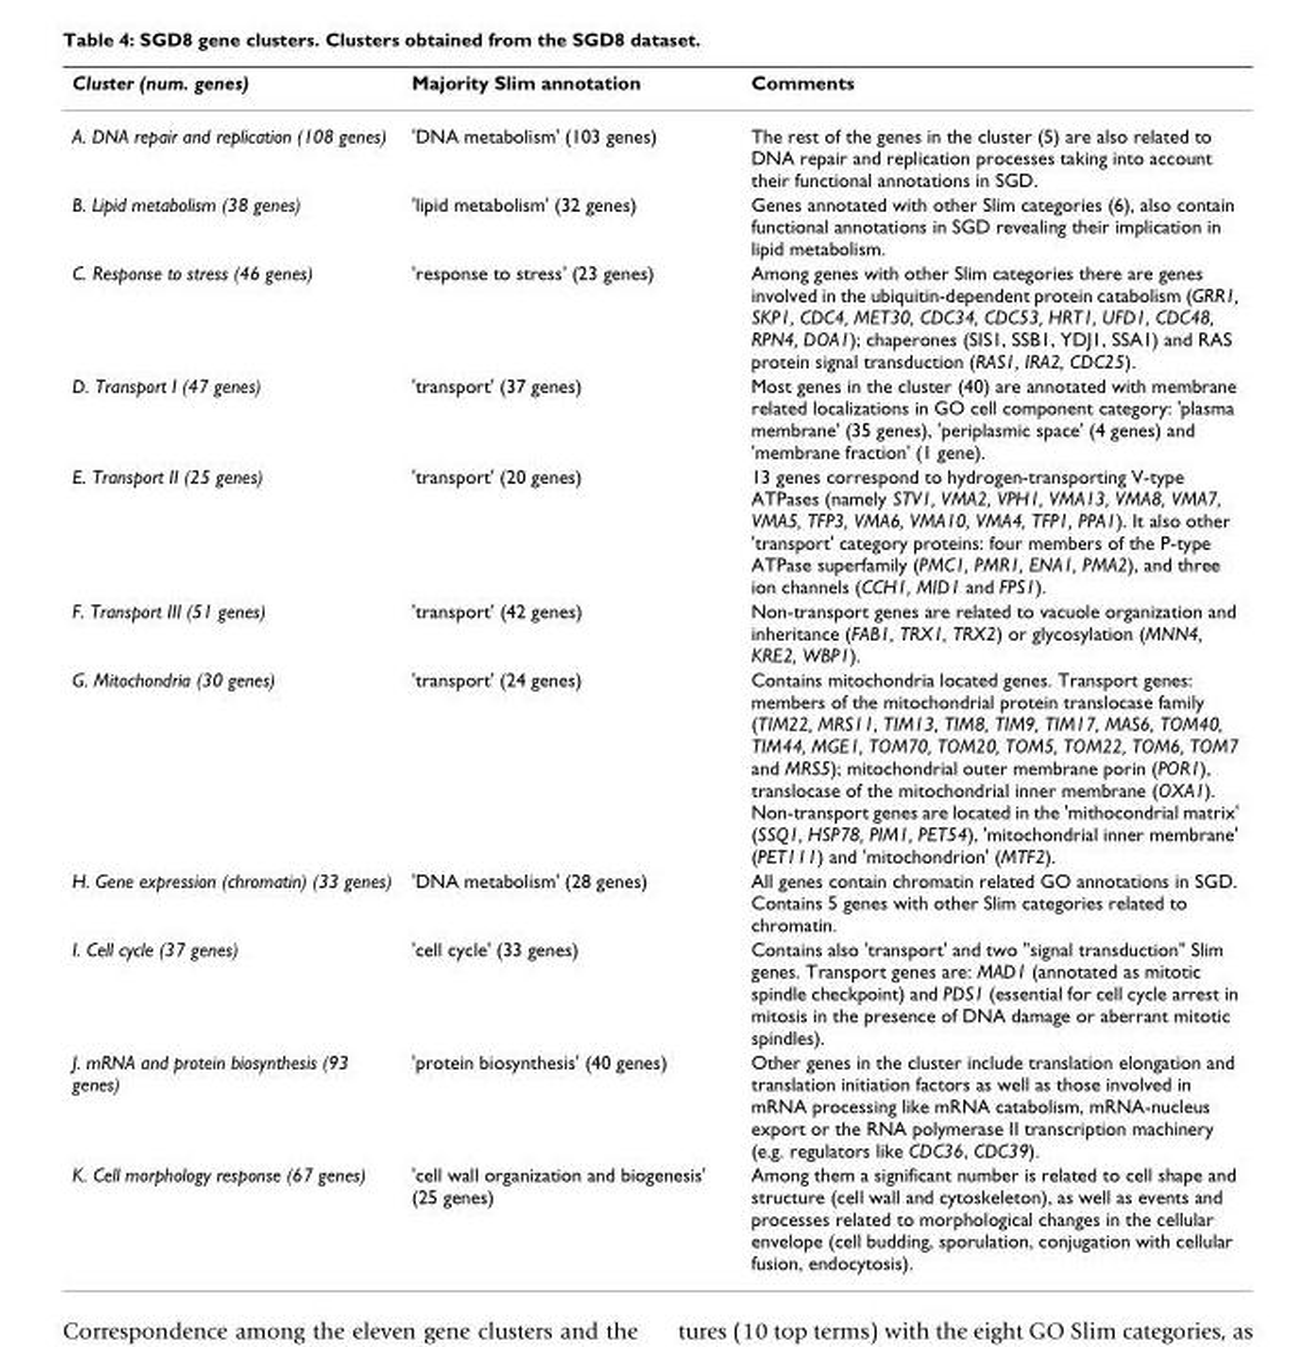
<table><thead><tr><td>Cluster (num. genes)</td><td>Majority Slim annotation</td><td>Comments</td></tr></thead><tbody><tr><td>A. DNA repair and replication (108 genes)</td><td>&#x27;DNA metabolism&#x27; (103 genes)</td><td>The rest of the genes in the cluster (5) are also related to DNA repair and replication processes taking into account their functional annotations in SGD.</td></tr><tr><td>B. Lipid metabolism (38 genes)</td><td>&#x27;lipid metabolism&#x27; (32 genes)</td><td>Genes annotated with other Slim categories (6), also contain functional annotations in SGD revealing their implication in lipid metabolism.</td></tr><tr><td>C. Response to stress (46 genes)</td><td>&#x27;response to stress&#x27; (23 genes)</td><td>Among genes with other Slim categories there are genes involved in the ubiquitin-dependent protein catabolism (GRR1, SKP1, CDC4, MET30, CDC34, CDC53, HRT1, UFD1, CDC48, RPN4, DOA1); chaperones (SIS1, SSB1, YDJ1, SSA1) and RAS protein signal transduction (RAS1, IRA2, CDC25).</td></tr><tr><td>D. Transport I (47 genes)</td><td>&#x27;transport&#x27; (37 genes)</td><td>Most genes in the cluster (40) are annotated with membrane related localizations in GO cell component category: &#x27;plasma membrane&#x27; (35 genes), &#x27;periplasmic space&#x27; (4 genes) and &#x27;membrane fraction&#x27; (1 gene).</td></tr><tr><td>E. Transport II (25 genes)</td><td>&#x27;transport&#x27; (20 genes)</td><td>13 genes correspond to hydrogen-transporting V-type ATPases (namely STV1, VMA2, VPH1, VMA13, VMA8, VMA7, VMA5, TFP3, VMA6, VMA10, VMA4, TFP1, PPA1). It also other &#x27;transport&#x27; category proteins: four members of the P-type ATPase superfamily (PMC1, PMR1, ENA1, PMA2), and three ion channels (CCH1, MID1 and FPS1).</td></tr><tr><td>F. Transport III (51 genes)</td><td>&#x27;transport&#x27; (42 genes)</td><td>Non-transport genes are related to vacuole organization and inheritance (FAB1, TRX1, TRX2) or glycosylation (MNN4, KRE2, WBP1).</td></tr><tr><td>G. Mitochondria (30 genes)</td><td>&#x27;transport&#x27; (24 genes)</td><td>Contains mitochondria located genes. Transport genes: members of the mitochondrial protein translocase family (TIM22, MRS11, TIM13, TIM8, TIM9, TIM17, MAS6, TOM40, TIM44, MGE1, TOM70, TOM20, TOM5, TOM22, TOM6, TOM7 and MRS5); mitochondrial outer membrane porin (POR1), translocase of the mitochondrial inner membrane (OXA1). Non-transport genes are located in the &#x27;mithocondrial matrix&#x27; (SSQ1, HSP78, PIM1, PET54), &#x27;mitochondrial inner membrane&#x27; (PET111) and &#x27;mitochondrion&#x27; (MTF2).</td></tr><tr><td>H. Gene expression (chromatin) (33 genes)</td><td>&#x27;DNA metabolism&#x27; (28 genes)</td><td>All genes contain chromatin related GO annotations in SGD. Contains 5 genes with other Slim categories related to chromatin.</td></tr><tr><td>I. Cell cycle (37 genes)</td><td>&#x27;cell cycle&#x27; (33 genes)</td><td>Contains also &#x27;transport&#x27; and two &quot;signal transduction&quot; Slim genes. Transport genes are: MAD1 (annotated as mitotic spindle checkpoint) and PDS1 (essential for cell cycle arrest in mitosis in the presence of DNA damage or aberrant mitotic spindles).</td></tr><tr><td>J. mRNA and protein biosynthesis (93 genes)</td><td>&#x27;protein biosynthesis&#x27; (40 genes)</td><td>Other genes in the cluster include translation elongation and translation initiation factors as well as those involved in mRNA processing like mRNA catabolism, mRNA-nucleus export or the RNA polymerase II transcription machinery (e.g. regulators like CDC36, CDC39).</td></tr><tr><td>K. Cell morphology response (67 genes)</td><td>&#x27;cell wall organization and biogenesis&#x27; (25 genes)</td><td>Among them a significant number is related to cell shape and structure (cell wall and cytoskeleton), as well as events and processes related to morphological changes in the cellular envelope (cell budding, sporulation, conjugation with cellular fusion, endocytosis).</td></tr></tbody></table>